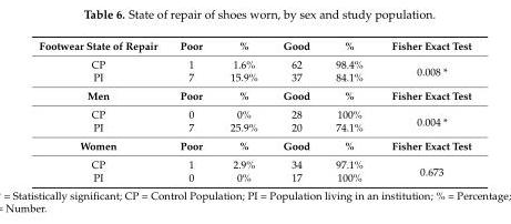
<table><thead><tr><td>Footwear State of Repair</td><td>Poor</td><td>%</td><td>Good</td><td>%</td><td>Fisher Exact Test</td></tr></thead><tbody><tr><td>CP</td><td>1</td><td>1.6%</td><td>62</td><td>98.4%</td><td rowspan="2">0.008 *</td></tr><tr><td>PI</td><td>7</td><td>15.9%</td><td>37</td><td>84.1%</td></tr><tr><td>Men</td><td>Poor</td><td>%</td><td>Good</td><td>%</td><td>Fisher Exact Test</td></tr><tr><td>CP</td><td>0</td><td>0%</td><td>28</td><td>100%</td><td rowspan="2">0.004 *</td></tr><tr><td>PI</td><td>7</td><td>25.9%</td><td>20</td><td>74.1%</td></tr><tr><td>Women</td><td>Poor</td><td>%</td><td>Good</td><td>%</td><td>Fisher Exact Test</td></tr><tr><td>CP</td><td>1</td><td>2.9%</td><td>34</td><td>97.1%</td><td rowspan="2">0.673</td></tr><tr><td>PI</td><td>0</td><td>0%</td><td>17</td><td>100%</td></tr></tbody></table>